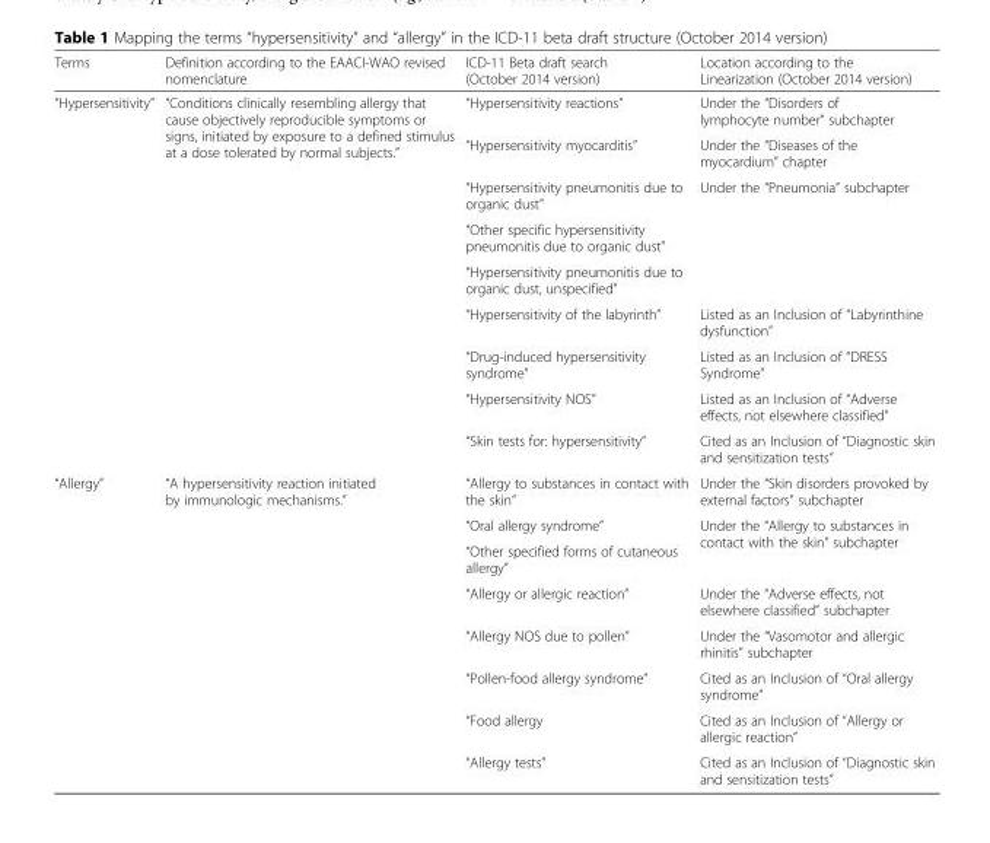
<table><thead><tr><td>Terms</td><td>Definition according to the EAACI-WAO revised nomenclature</td><td>ICD-11 Beta draft search (October 2014 version)</td><td>Location according to the Linearization (October 2014 version)</td></tr></thead><tbody><tr><td rowspan="9">“Hypersensitivity”</td><td rowspan="9">“Conditions clinically resembling allergy that cause objectively reproducible symptoms or signs, initiated by exposure to a defined stimulus at a dose tolerated by normal subjects.”</td><td>“Hypersensitivity reactions”</td><td>Under the “Disorders of lymphocyte number” subchapter</td></tr><tr><td>“Hypersensitivity myocarditis”</td><td>Under the “Diseases of the myocardium” chapter</td></tr><tr><td>“Hypersensitivity pneumonitis due to organic dust”</td><td rowspan="3">Under the “Pneumonia” subchapter</td></tr><tr><td>“Other specific hypersensitivity pneumonitis due to organic dust”</td></tr><tr><td>“Hypersensitivity pneumonitis due to organic dust, unspecified”</td></tr><tr><td>“Hypersensitivity of the labyrinth”</td><td>Listed as an Inclusion of “Labyrinthine dysfunction”</td></tr><tr><td>“Drug-induced hypersensitivity syndrome”</td><td>Listed as an Inclusion of “DRESS Syndrome”</td></tr><tr><td>“Hypersensitivity NOS”</td><td>Listed as an Inclusion of “Adverse effects, not elsewhere classified”</td></tr><tr><td>“Skin tests for: hypersensitivity”</td><td>Cited as an Inclusion of “Diagnostic skin and sensitization tests”</td></tr><tr><td rowspan="8">“Allergy”</td><td rowspan="8">“A hypersensitivity reaction initiated by immunologic mechanisms.”</td><td>“Allergy to substances in contact with the skin”</td><td>Under the “Skin disorders provoked by external factors” subchapter</td></tr><tr><td>“Oral allergy syndrome”</td><td rowspan="2">Under the “Allergy to substances in contact with the skin” subchapter</td></tr><tr><td>“Other specified forms of cutaneous allergy”</td></tr><tr><td>“Allergy or allergic reaction”</td><td>Under the “Adverse effects, not elsewhere classified” subchapter</td></tr><tr><td>“Allergy NOS due to pollen”</td><td>Under the “Vasomotor and allergic rhinitis” subchapter</td></tr><tr><td>“Pollen-food allergy syndrome”</td><td>Cited as an Inclusion of “Oral allergy syndrome”</td></tr><tr><td>“Food allergy</td><td>Cited as an Inclusion of “Allergy or allergic reaction”</td></tr><tr><td>“Allergy tests”</td><td>Cited as an Inclusion of “Diagnostic skin and sensitization tests”</td></tr></tbody></table>